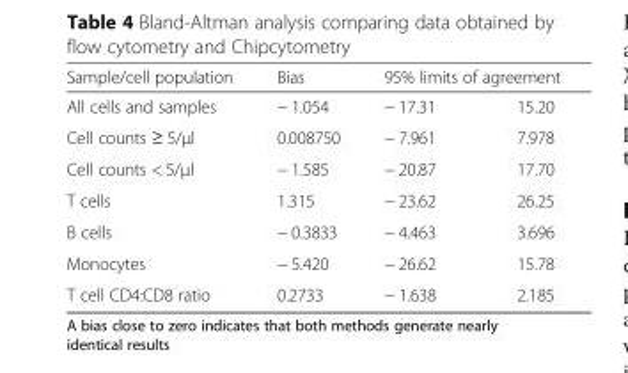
<table><thead><tr><td rowspan="2">Sample/cell population All cells and samples</td><td rowspan="2">Bias − 1.054</td><td colspan="2">95% limits of agreement</td></tr><tr><td>− 17.31</td><td>15.20</td></tr></thead><tbody><tr><td>Cell counts ≥ 5/μl</td><td>0.008750</td><td>− 7.961</td><td>7.978</td></tr><tr><td>Cell counts &lt; 5/μl</td><td>− 1.585</td><td>− 20.87</td><td>17.70</td></tr><tr><td>T cells</td><td>1.315</td><td>− 23.62</td><td>26.25</td></tr><tr><td>B cells</td><td>− 0.3833</td><td>− 4.463</td><td>3.696</td></tr><tr><td>Monocytes</td><td>− 5.420</td><td>− 26.62</td><td>15.78</td></tr><tr><td>T cell CD4:CD8 ratio</td><td>0.2733</td><td>− 1.638</td><td>2.185</td></tr></tbody></table>